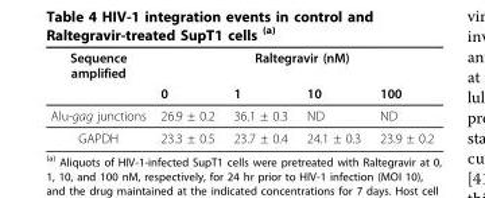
<table><thead><tr><td rowspan="2">Sequence amplified</td><td colspan="4">Raltegravir (nM)</td></tr><tr><td>0</td><td>1</td><td>10</td><td>100</td></tr></thead><tbody><tr><td>Alu-gag junctions</td><td>26.9 ± 0.2</td><td>36.1 ± 0.3</td><td>ND</td><td>ND</td></tr><tr><td>GAPDH</td><td>23.3 ± 0.5</td><td>23.7 ± 0.4</td><td>24.1 ± 0.3</td><td>23.9 ± 0.2</td></tr></tbody></table>